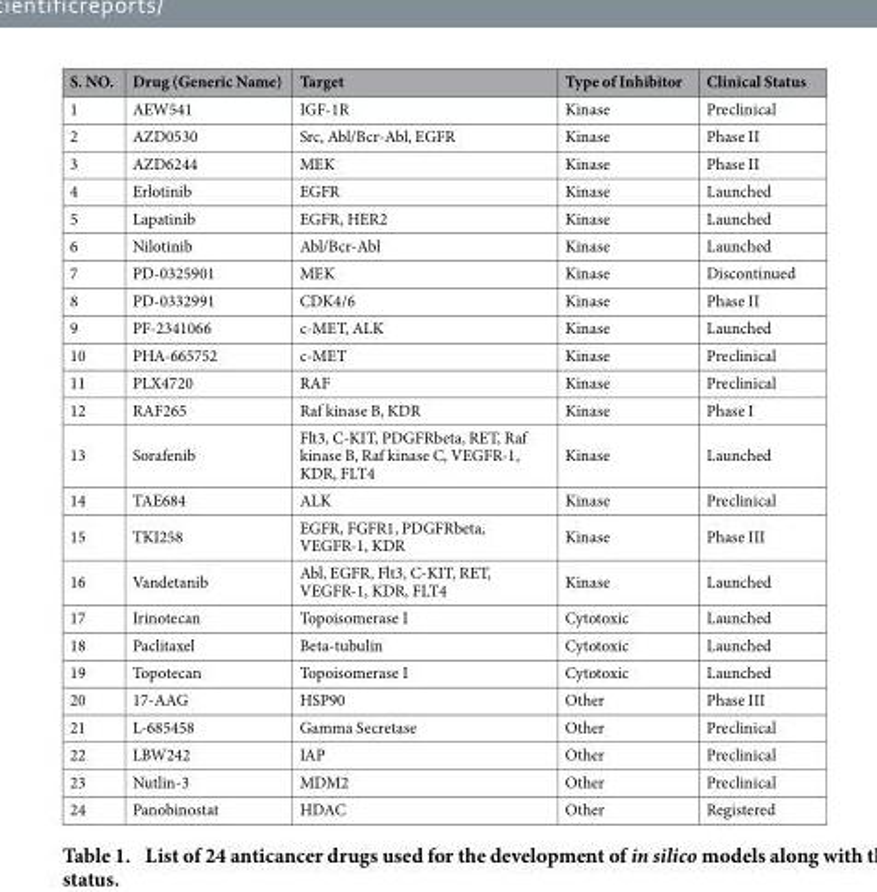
<table><thead><tr><td>S. NO.</td><td>Drug (Generic Name)</td><td>Target</td><td>Type of Inhibitor</td><td>Clinical Status</td></tr></thead><tbody><tr><td>1</td><td>AEW541</td><td>IGF-1R</td><td>Kinase</td><td>Preclinical</td></tr><tr><td>2</td><td>AZD0530</td><td>Src, Abl/Bcr-Abl, EGFR</td><td>Kinase</td><td>Phase II</td></tr><tr><td>3</td><td>AZD6244</td><td>MEK</td><td>Kinase</td><td>Phase II</td></tr><tr><td>4</td><td>Erlotinib</td><td>EGFR</td><td>Kinase</td><td>Launched</td></tr><tr><td>5</td><td>Lapatinib</td><td>EGFR, HER2</td><td>Kinase</td><td>Launched</td></tr><tr><td>6</td><td>Nilotinib</td><td>Abl/Bcr-Abl</td><td>Kinase</td><td>Launched</td></tr><tr><td>7</td><td>PD-0325901</td><td>MEK</td><td>Kinase</td><td>Discontinued</td></tr><tr><td>8</td><td>PD-0332991</td><td>CDK4/6</td><td>Kinase</td><td>Phase II</td></tr><tr><td>9</td><td>PF-2341066</td><td>c-MET, ALK</td><td>Kinase</td><td>Launched</td></tr><tr><td>10</td><td>PHA-665752</td><td>c-MET</td><td>Kinase</td><td>Preclinical</td></tr><tr><td>11</td><td>PLX4720</td><td>RAF</td><td>Kinase</td><td>Preclinical</td></tr><tr><td>12</td><td>RAF265</td><td>Raf kinase B, KDR</td><td>Kinase</td><td>Phase I</td></tr><tr><td>13</td><td>Sorafenib</td><td>Flt3, C-KIT, PDGFRbeta, RET, Raf kinase B, Raf kinase C, VEGFR-1, KDR, FLT4</td><td>Kinase</td><td>Launched</td></tr><tr><td>14</td><td>TAE684</td><td>ALK</td><td>Kinase</td><td>Preclinical</td></tr><tr><td>15</td><td>TKI258</td><td>EGFR, FGFR1, PDGFRbeta, VEGFR-1, KDR</td><td>Kinase</td><td>Phase III</td></tr><tr><td>16</td><td>Vandetanib</td><td>Abl, EGFR, Flt3, C-KIT, RET, VEGFR-1, KDR, FLT4</td><td>Kinase</td><td>Launched</td></tr><tr><td>17</td><td>Irinotecan</td><td>Topoisomerase I</td><td>Cytotoxic</td><td>Launched</td></tr><tr><td>18</td><td>Paclitaxel</td><td>Beta-tubulin</td><td>Cytotoxic</td><td>Launched</td></tr><tr><td>19</td><td>Topotecan</td><td>Topoisomerase I</td><td>Cytotoxic</td><td>Launched</td></tr><tr><td>20</td><td>17-AAG</td><td>HSP90</td><td>Other</td><td>Phase III</td></tr><tr><td>21</td><td>L-685458</td><td>Gamma Secretase</td><td>Other</td><td>Preclinical</td></tr><tr><td>22</td><td>LBW242</td><td>IAP</td><td>Other</td><td>Preclinical</td></tr><tr><td>23</td><td>Nutlin-3</td><td>MDM2</td><td>Other</td><td>Preclinical</td></tr><tr><td>24</td><td>Panobinostat</td><td>HDAC</td><td>Other</td><td>Registered</td></tr></tbody></table>